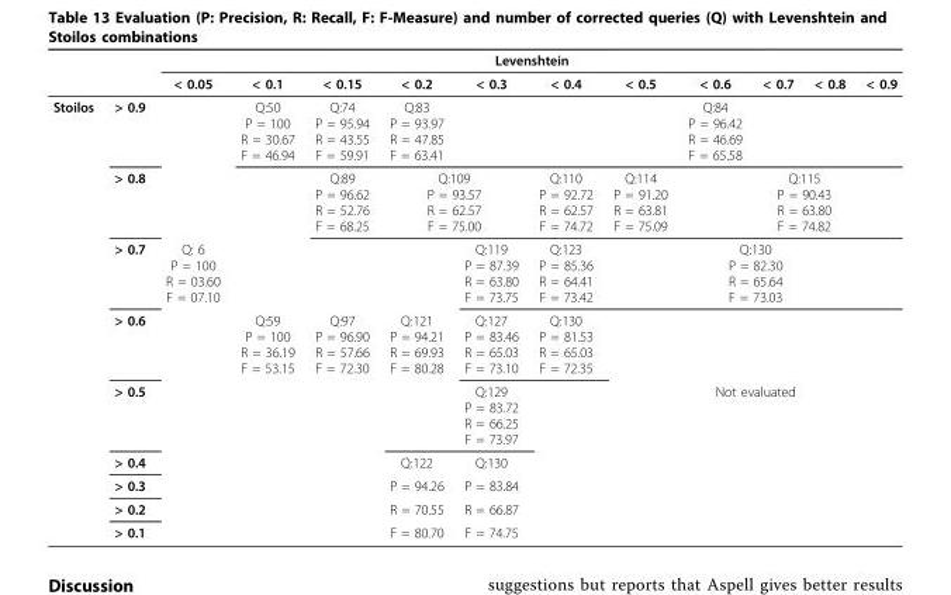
<table><thead><tr><td rowspan="2"></td><td rowspan="2"></td><td colspan="11">Levenshtein</td></tr><tr><td>&lt; 0.05</td><td>&lt; 0.1</td><td>&lt; 0.15</td><td>&lt; 0.2</td><td>&lt; 0.3</td><td>&lt; 0.4</td><td>&lt; 0.5</td><td>&lt; 0.6</td><td>&lt; 0.7</td><td>&lt; 0.8</td><td>&lt; 0.9</td></tr></thead><tbody><tr><td rowspan="9">Stoilos</td><td>&gt; 0.9</td><td></td><td>Q:50 P = 100 R = 30.67 F = 46.94</td><td>Q:74 P = 95.94 R = 43.55 F = 59.91</td><td>Q:83 P = 93.97 R = 47.85 F = 63.41</td><td></td><td></td><td></td><td>Q:84 P = 96.42 R = 46.69 F = 65.58</td><td></td><td></td><td></td></tr><tr><td>&gt; 0.8</td><td></td><td></td><td>Q:89 P = 96.62 R = 52.76 F = 68.25</td><td colspan="2">Q:109 P = 93.57 R = 62.57 F = 75.00</td><td>Q:110 P = 92.72 R = 62.57 F = 74.72</td><td>Q:114 P = 91.20 R = 63.81 F = 75.09</td><td></td><td colspan="2">Q:115 P = 90.43 R = 63.80 F = 74.82</td><td></td></tr><tr><td>&gt; 0.7</td><td>Q: 6 P = 100 R = 03.60 F = 07.10</td><td></td><td></td><td></td><td>Q:119 P = 87.39 R = 63.80 F = 73.75</td><td>Q:123 P = 85.36 R = 64.41 F = 73.42</td><td colspan="5">Q:130 P = 82.30 R = 65.64 F = 73.03</td></tr><tr><td>&gt; 0.6</td><td></td><td>Q:59 P = 100 R = 36.19 F = 53.15</td><td>Q:97 P = 96.90 R = 57.66 F = 72.30</td><td>Q:121 P = 94.21 R = 69.93 F = 80.28</td><td>Q:127 P = 83.46 R = 65.03 F = 73.10</td><td>Q:130 P = 81.53 R = 65.03 F = 72.35</td><td></td><td></td><td></td><td></td><td></td></tr><tr><td>&gt; 0.5</td><td></td><td></td><td></td><td></td><td>Q:129 P = 83.72 R = 66.25 F = 73.97</td><td></td><td colspan="5">Not evaluated</td></tr><tr><td>&gt; 0.4</td><td></td><td></td><td></td><td>Q:122</td><td>Q:130</td><td></td><td></td><td></td><td></td><td></td><td></td></tr><tr><td>&gt; 0.3</td><td></td><td></td><td></td><td>P = 94.26</td><td>P = 83.84</td><td></td><td></td><td></td><td></td><td></td><td></td></tr><tr><td>&gt; 0.2</td><td></td><td></td><td></td><td>R = 70.55</td><td>R = 66.87</td><td></td><td></td><td></td><td></td><td></td><td></td></tr><tr><td>&gt; 0.1</td><td></td><td></td><td></td><td>F = 80.70</td><td>F = 74.75</td><td></td><td></td><td></td><td></td><td></td><td></td></tr></tbody></table>